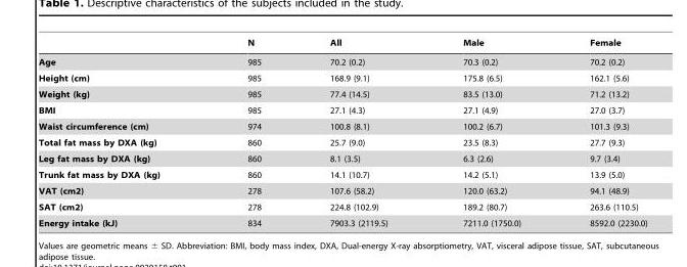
<table><thead><tr><td></td><td>N</td><td>All</td><td>Male</td><td>Female</td></tr></thead><tbody><tr><td>Age</td><td>985</td><td>70.2 (0.2)</td><td>70.3 (0.2)</td><td>70.2 (0.2)</td></tr><tr><td>Height (cm)</td><td>985</td><td>168.9 (9.1)</td><td>175.8 (6.5)</td><td>162.1 (5.6)</td></tr><tr><td>Weight (kg)</td><td>985</td><td>77.4 (14.5)</td><td>83.5 (13.0)</td><td>71.2 (13.2)</td></tr><tr><td>BMI</td><td>985</td><td>27.1 (4.3)</td><td>27.1 (4.9)</td><td>27.0 (3.7)</td></tr><tr><td>Waist circumference (cm)</td><td>974</td><td>100.8 (8.1)</td><td>100.2 (6.7)</td><td>101.3 (9.3)</td></tr><tr><td>Total fat mass by DXA (kg)</td><td>860</td><td>25.7 (9.0)</td><td>23.5 (8.3)</td><td>27.7 (9.3)</td></tr><tr><td>Leg fat mass by DXA (kg)</td><td>860</td><td>8.1 (3.5)</td><td>6.3 (2.6)</td><td>9.7 (3.4)</td></tr><tr><td>Trunk fat mass by DXA (kg)</td><td>860</td><td>14.1 (10.7)</td><td>14.2 (5.1)</td><td>13.9 (5.0)</td></tr><tr><td>VAT (cm2)</td><td>278</td><td>107.6 (58.2)</td><td>120.0 (63.2)</td><td>94.1 (48.9)</td></tr><tr><td>SAT (cm2)</td><td>278</td><td>224.8 (102.9)</td><td>189.2 (80.7)</td><td>263.6 (110.5)</td></tr><tr><td>Energy intake (kJ)</td><td>834</td><td>7903.3 (2119.5)</td><td>7211.0 (1750.0)</td><td>8592.0 (2230.0)</td></tr></tbody></table>